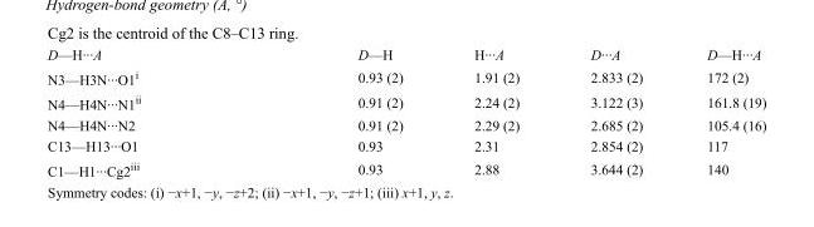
<table><tbody><tr><td>D—H···A</td><td>D—H</td><td>H···A</td><td>D···A</td><td>D—H···A</td></tr><tr><td>N3—H3N···O1<sup>i</sup></td><td>0.93 (2)</td><td>1.91 (2)</td><td>2.833 (2)</td><td>172 (2)</td></tr><tr><td>N4—H4N···N1<sup>ii</sup></td><td>0.91 (2)</td><td>2.24 (2)</td><td>3.122 (3)</td><td>161.8 (19)</td></tr><tr><td>N4—H4N···N2</td><td>0.91 (2)</td><td>2.29 (2)</td><td>2.685 (2)</td><td>105.4 (16)</td></tr><tr><td>C13—H13···O1</td><td>0.93</td><td>2.31</td><td>2.854 (2)</td><td>117</td></tr><tr><td>C1—H1···Cg2<sup>iii</sup></td><td>0.93</td><td>2.88</td><td>3.644 (2)</td><td>140</td></tr></tbody></table>